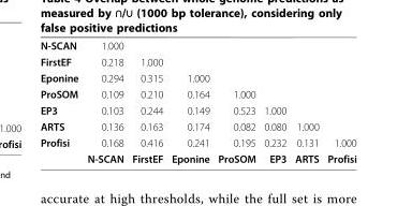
<table><tbody><tr><td>N-SCAN</td><td>1.000</td><td></td><td></td><td></td><td></td><td></td><td></td></tr><tr><td>FirstEF</td><td>0.218</td><td>1.000</td><td></td><td></td><td></td><td></td><td></td></tr><tr><td>Eponine</td><td>0.294</td><td>0.315</td><td>1.000</td><td></td><td></td><td></td><td></td></tr><tr><td>ProSOM</td><td>0.109</td><td>0.210</td><td>0.164</td><td>1.000</td><td></td><td></td><td></td></tr><tr><td>EP3</td><td>0.103</td><td>0.244</td><td>0.149</td><td>0.523</td><td>1.000</td><td></td><td></td></tr><tr><td>ARTS</td><td>0.136</td><td>0.163</td><td>0.174</td><td>0.082</td><td>0.080</td><td>1.000</td><td></td></tr><tr><td rowspan="2">Profisi</td><td>0.168</td><td>0.416</td><td>0.241</td><td>0.195</td><td>0.232</td><td>0.131</td><td>1.000</td></tr><tr><td>N-SCAN</td><td>FirstEF</td><td>Eponine</td><td>ProSOM</td><td>EP3</td><td>ARTS</td><td>Profisi</td></tr></tbody></table>